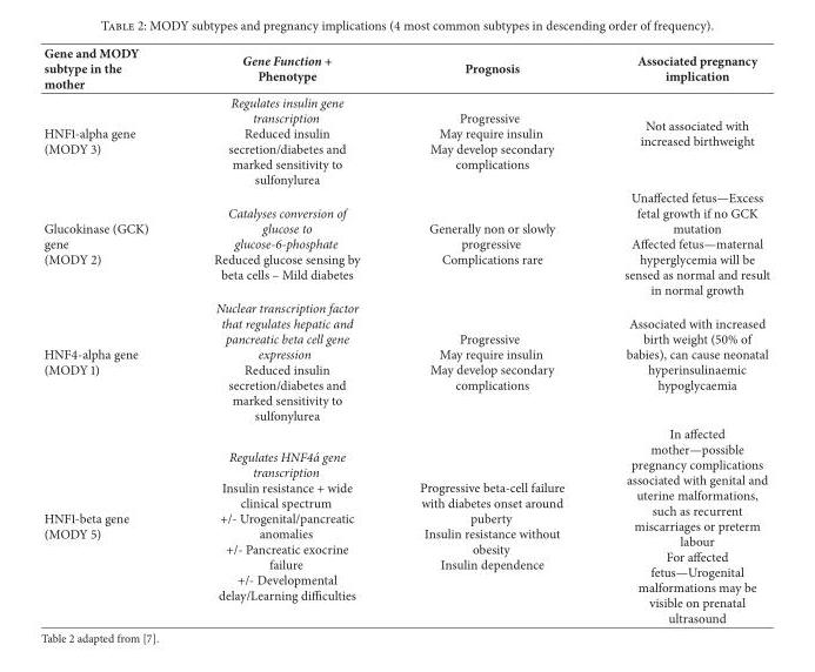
<table><thead><tr><td>Gene and MODY subtype in the mother</td><td>Gene Function + Phenotype</td><td>Prognosis</td><td>Associated pregnancy implication</td></tr></thead><tbody><tr><td>HNF1-alpha gene (MODY 3)</td><td>Regulates insulin gene transcription Reduced insulin secretion/diabetes and marked sensitivity to sulfonylurea</td><td>Progressive May require insulin May develop secondary complications</td><td>Not associated with increased birthweight</td></tr><tr><td>Glucokinase (GCK) gene (MODY 2)</td><td>Catalyses conversion of glucose to glucose-6-phosphate Reduced glucose sensing by beta cells – Mild diabetes</td><td>Generally non or slowly progressive Complications rare</td><td>Unaffected fetus—Excess fetal growth if no GCK mutation Affected fetus—maternal hyperglycemia will be sensed as normal and result in normal growth</td></tr><tr><td>HNF4-alpha gene (MODY 1)</td><td>Nuclear transcription factor that regulates hepatic and pancreatic beta cell gene expression Reduced insulin secretion/diabetes and marked sensitivity to sulfonylurea</td><td>Progressive May require insulin May develop secondary complications</td><td>Associated with increased birth weight (50% of babies), can cause neonatal hyperinsulinaemic hypoglycaemia</td></tr><tr><td>HNF1-beta gene (MODY 5)</td><td>Regulates HNF4´a gene transcription Insulin resistance + wide clinical spectrum +/- Urogenital/pancreatic anomalies +/- Pancreatic exocrine failure +/- Developmental delay/Learning difficulties</td><td>Progressive beta-cell failure with diabetes onset around puberty Insulin resistance without obesity Insulin dependence</td><td>In affected mother—possible pregnancy complications associated with genital and uterine malformations, such as recurrent miscarriages or preterm labour For affected fetus—Urogenital malformations may be visible on prenatal ultrasound</td></tr></tbody></table>